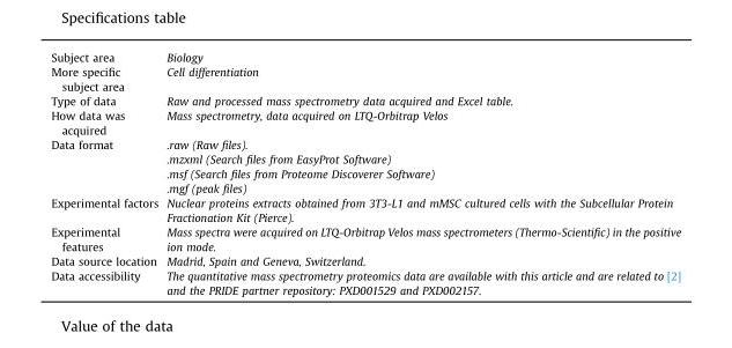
<table><tbody><tr><td>Subject area</td><td>Biology</td></tr><tr><td>More specific subject area</td><td>Cell differentiation</td></tr><tr><td>Type of data</td><td>Raw and processed mass spectrometry data acquired and Excel table.</td></tr><tr><td>How data was acquired</td><td>Mass spectrometry, data acquired on LTQ-Orbitrap Velos</td></tr><tr><td rowspan="4">Data format</td><td>.raw (Raw files).</td></tr><tr><td>.mzxml (Search files from EasyProt Software)</td></tr><tr><td>.msf (Search files from Proteome Discoverer Software)</td></tr><tr><td>.mgf (peak files)</td></tr><tr><td>Experimental factors</td><td>Nuclear proteins extracts obtained from 3T3-L1 and mMSC cultured cells with the Subcellular Protein Fractionation Kit (Pierce).</td></tr><tr><td>Experimental features</td><td>Mass spectra were acquired on LTQ-Orbitrap Velos mass spectrometers (Thermo-Scientific) in the positive ion mode.</td></tr><tr><td>Data source location</td><td>Madrid, Spain and Geneva, Switzerland.</td></tr><tr><td>Data accessibility</td><td>The quantitative mass spectrometry proteomics data are available with this article and are related to [2] and the PRIDE partner repository: PXD001529 and PXD002157.</td></tr></tbody></table>